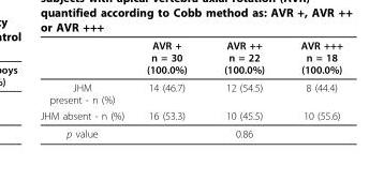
<table><thead><tr><td></td><td>AVR + n = 30 (100.0%)</td><td>AVR ++ n = 22 (100.0%)</td><td>AVR +++ n = 18 (100.0%)</td></tr></thead><tbody><tr><td>JHM present - n (%)</td><td>14 (46.7)</td><td>12 (54.5)</td><td>8 (44.4)</td></tr><tr><td>JHM absent - n (%)</td><td>16 (53.3)</td><td>10 (45.5)</td><td>10 (55.6)</td></tr><tr><td>p value</td><td colspan="3">0.86</td></tr></tbody></table>